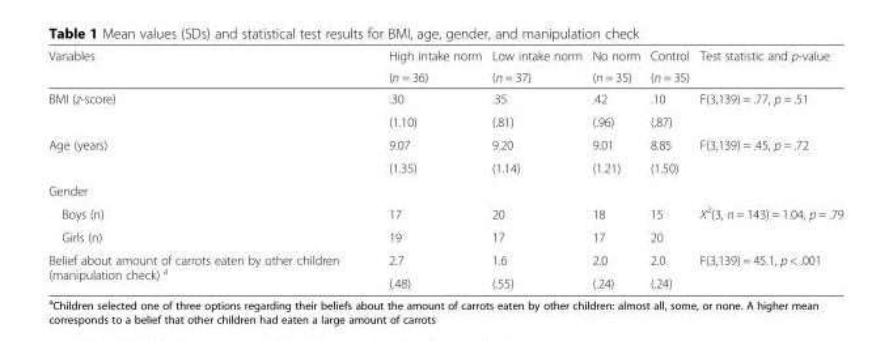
<table><thead><tr><td rowspan="2">Variables</td><td rowspan="2">High intake norm (n = 36)</td><td rowspan="2">Low intake norm (n = 37)</td><td rowspan="2">No norm (n = 35)</td><td rowspan="2">Control (n = 35)</td><td rowspan="2">Test statistic and p-value</td></tr><tr></tr></thead><tbody><tr><td rowspan="2">BMI (z-score)</td><td>.30</td><td>.35</td><td>.42</td><td>.10</td><td rowspan="2">F(3,139) = .77, p = .51</td></tr><tr><td>(1.10)</td><td>(.81)</td><td>(.96)</td><td>(.87)</td></tr><tr><td rowspan="2">Age (years)</td><td>9.07</td><td>9.20</td><td>9.01</td><td>8.85</td><td rowspan="2">F(3,139) = .45, p = .72</td></tr><tr><td>(1.35)</td><td>(1.14)</td><td>(1.21)</td><td>(1.50)</td></tr><tr><td colspan="6">Gender</td></tr><tr><td>Boys (n)</td><td>17</td><td>20</td><td>18</td><td>15</td><td>X<sup>2</sup>(3, n = 143) = 1.04, p = .79</td></tr><tr><td>Girls (n)</td><td>19</td><td>17</td><td>17</td><td>20</td><td></td></tr><tr><td rowspan="2">Belief about amount of carrots eaten by other children (manipulation check) <sup>a</sup></td><td>2.7</td><td>1.6</td><td>2.0</td><td>2.0</td><td rowspan="2">F(3,139) = 45.1, p &lt; .001</td></tr><tr><td>(.48)</td><td>(.55)</td><td>(.24)</td><td>(.24)</td></tr></tbody></table>